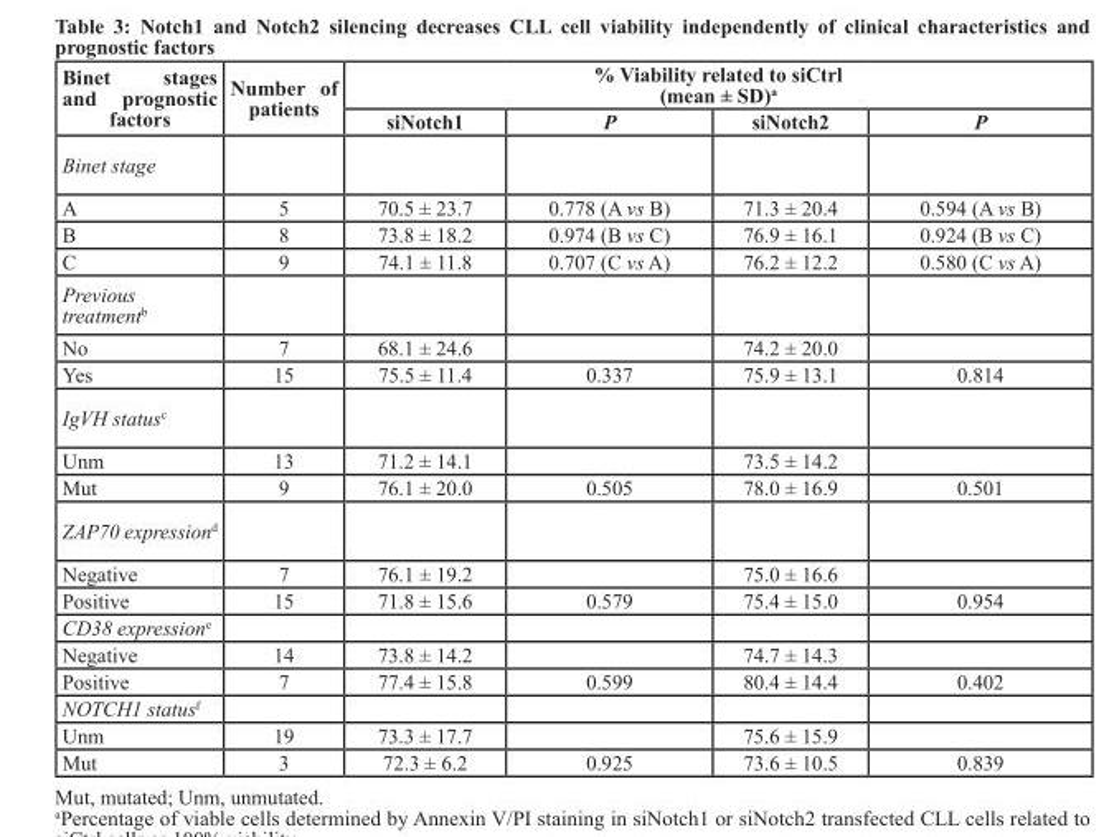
<table><thead><tr><td rowspan="2">Binet stages and prognostic factors</td><td rowspan="2">Number of patients</td><td colspan="4">% Viability related to siCtrl (mean ± SD)<sup>a</sup></td></tr><tr><td>siNotch1</td><td>P</td><td>siNotch2</td><td>P</td></tr></thead><tbody><tr><td colspan="6">Binet stage</td></tr><tr><td>A</td><td>5</td><td>70.5 ± 23.7</td><td>0.778 (A vs B)</td><td>71.3 ± 20.4</td><td>0.594 (A vs B)</td></tr><tr><td>B</td><td>8</td><td>73.8 ± 18.2</td><td>0.974 (B vs C)</td><td>76.9 ± 16.1</td><td>0.924 (B vs C)</td></tr><tr><td>C</td><td>9</td><td>74.1 ± 11.8</td><td>0.707 (C vs A)</td><td>76.2 ± 12.2</td><td>0.580 (C vs A)</td></tr><tr><td colspan="6">Previous treatment<sup>b</sup></td></tr><tr><td>No</td><td>7</td><td>68.1 ± 24.6</td><td></td><td>74.2 ± 20.0</td><td></td></tr><tr><td>Yes</td><td>15</td><td>75.5 ± 11.4</td><td>0.337</td><td>75.9 ± 13.1</td><td>0.814</td></tr><tr><td colspan="6">IgVH status<sup>c</sup></td></tr><tr><td>Unm</td><td>13</td><td>71.2 ± 14.1</td><td></td><td>73.5 ± 14.2</td><td></td></tr><tr><td>Mut</td><td>9</td><td>76.1 ± 20.0</td><td>0.505</td><td>78.0 ± 16.9</td><td>0.501</td></tr><tr><td colspan="6">ZAP70 expression<sup>d</sup></td></tr><tr><td>Negative</td><td>7</td><td>76.1 ± 19.2</td><td></td><td>75.0 ± 16.6</td><td></td></tr><tr><td>Positive</td><td>15</td><td>71.8 ± 15.6</td><td>0.579</td><td>75.4 ± 15.0</td><td>0.954</td></tr><tr><td colspan="6">CD38 expressione</td></tr><tr><td>Negative</td><td>14</td><td>73.8 ± 14.2</td><td></td><td>74.7 ± 14.3</td><td></td></tr><tr><td>Positive</td><td>7</td><td>77.4 ± 15.8</td><td>0.599</td><td>80.4 ± 14.4</td><td>0.402</td></tr><tr><td colspan="6">NOTCH1 status<sup>f</sup></td></tr><tr><td>Unm</td><td>19</td><td>73.3 ± 17.7</td><td></td><td>75.6 ± 15.9</td><td></td></tr><tr><td>Mut</td><td>3</td><td>72.3 ± 6.2</td><td>0.925</td><td>73.6 ± 10.5</td><td>0.839</td></tr></tbody></table>